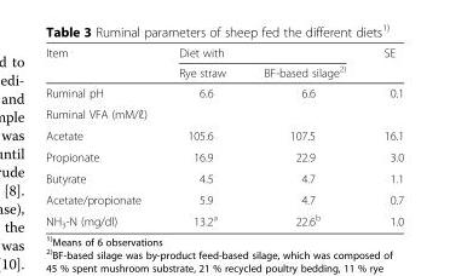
<table><thead><tr><td rowspan="2">Item</td><td colspan="2">Diet with</td><td rowspan="2">SE</td></tr><tr><td>Rye straw</td><td>BF-based silage<sup>2)</sup></td></tr></thead><tbody><tr><td>Ruminal pH</td><td>6.6</td><td>6.6</td><td>0.1</td></tr><tr><td colspan="4">Ruminal VFA (mM/ℓ)</td></tr><tr><td>Acetate</td><td>105.6</td><td>107.5</td><td>16.1</td></tr><tr><td>Propionate</td><td>16.9</td><td>22.9</td><td>3.0</td></tr><tr><td>Butyrate</td><td>4.5</td><td>4.7</td><td>1.1</td></tr><tr><td>Acetate/propionate</td><td>5.9</td><td>4.7</td><td>0.7</td></tr><tr><td>NH<sub>3</sub>-N (mg/dl)</td><td>13.2<sup>a</sup></td><td>22.6<sup>b</sup></td><td>1.0</td></tr></tbody></table>